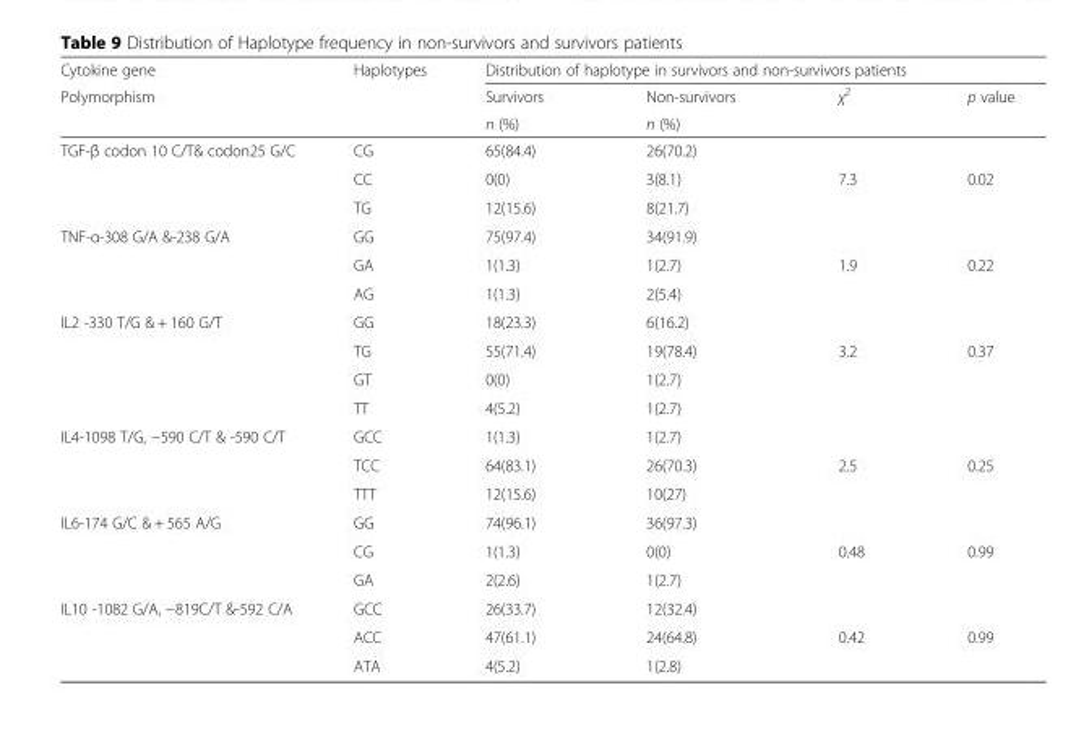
<table><thead><tr><td rowspan="3">Cytokine gene Polymorphism</td><td rowspan="3">Haplotypes</td><td colspan="4">Distribution of haplotype in survivors and non-survivors patients</td></tr><tr><td rowspan="2">Survivors n (%)</td><td rowspan="2">Non-survivors n (%)</td><td rowspan="2">χ<sup>2</sup></td><td rowspan="2">p value</td></tr><tr></tr></thead><tbody><tr><td rowspan="3">TGF-β codon 10 C/T&amp; codon25 G/C</td><td>CG</td><td>65(84.4)</td><td>26(70.2)</td><td></td><td></td></tr><tr><td>CC</td><td>0(0)</td><td>3(8.1)</td><td>7.3</td><td>0.02</td></tr><tr><td>TG</td><td>12(15.6)</td><td>8(21.7)</td><td></td><td></td></tr><tr><td rowspan="3">TNF-α-308 G/A &amp;-238 G/A</td><td>GG</td><td>75(97.4)</td><td>34(91.9)</td><td></td><td></td></tr><tr><td>GA</td><td>1(1.3)</td><td>1(2.7)</td><td>1.9</td><td>0.22</td></tr><tr><td>AG</td><td>1(1.3)</td><td>2(5.4)</td><td></td><td></td></tr><tr><td rowspan="4">IL2 -330 T/G &amp; + 160 G/T</td><td>GG</td><td>18(23.3)</td><td>6(16.2)</td><td></td><td></td></tr><tr><td>TG</td><td>55(71.4)</td><td>19(78.4)</td><td>3.2</td><td>0.37</td></tr><tr><td>GT</td><td>0(0)</td><td>1(2.7)</td><td></td><td></td></tr><tr><td>TT</td><td>4(5.2)</td><td>1(2.7)</td><td></td><td></td></tr><tr><td rowspan="3">IL4-1098 T/G, −590 C/T &amp; -590 C/T</td><td>GCC</td><td>1(1.3)</td><td>1(2.7)</td><td></td><td></td></tr><tr><td>TCC</td><td>64(83.1)</td><td>26(70.3)</td><td>2.5</td><td>0.25</td></tr><tr><td>TTT</td><td>12(15.6)</td><td>10(27)</td><td></td><td></td></tr><tr><td rowspan="3">IL6-174 G/C &amp; + 565 A/G</td><td>GG</td><td>74(96.1)</td><td>36(97.3)</td><td></td><td></td></tr><tr><td>CG</td><td>1(1.3)</td><td>0(0)</td><td>0.48</td><td>0.99</td></tr><tr><td>GA</td><td>2(2.6)</td><td>1(2.7)</td><td></td><td></td></tr><tr><td rowspan="3">IL10 -1082 G/A, −819C/T &amp;-592 C/A</td><td>GCC</td><td>26(33.7)</td><td>12(32.4)</td><td></td><td></td></tr><tr><td>ACC</td><td>47(61.1)</td><td>24(64.8)</td><td>0.42</td><td>0.99</td></tr><tr><td>ATA</td><td>4(5.2)</td><td>1(2.8)</td><td></td><td></td></tr></tbody></table>